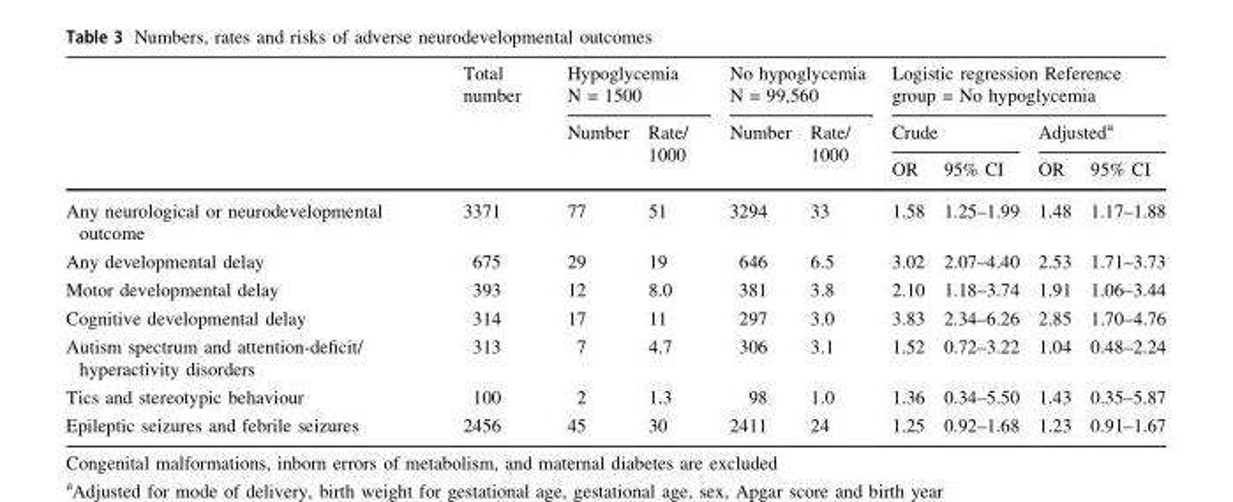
<table><thead><tr><td rowspan="3"></td><td rowspan="3">Total number</td><td colspan="2">Hypoglycemia N = 1500</td><td colspan="2">No hypoglycemia N = 99,560</td><td colspan="4">Logistic regression Reference group = No hypoglycemia</td></tr><tr><td rowspan="2">Number</td><td rowspan="2">Rate/ 1000</td><td rowspan="2">Number</td><td rowspan="2">Rate/ 1000</td><td colspan="2">Crude</td><td colspan="2">Adjusted<sup>a</sup></td></tr><tr><td>OR</td><td>95% CI</td><td>OR</td><td>95% CI</td></tr></thead><tbody><tr><td>Any neurological or neurodevelopmental outcome</td><td>3371</td><td>77</td><td>51</td><td>3294</td><td>33</td><td>1.58</td><td>1.25–1.99</td><td>1.48</td><td>1.17–1.88</td></tr><tr><td>Any developmental delay</td><td>675</td><td>29</td><td>19</td><td>646</td><td>6.5</td><td>3.02</td><td>2.07–4.40</td><td>2.53</td><td>1.71–3.73</td></tr><tr><td>Motor developmental delay</td><td>393</td><td>12</td><td>8.0</td><td>381</td><td>3.8</td><td>2.10</td><td>1.18–3.74</td><td>1.91</td><td>1.06–3.44</td></tr><tr><td>Cognitive developmental delay</td><td>314</td><td>17</td><td>11</td><td>297</td><td>3.0</td><td>3.83</td><td>2.34–6.26</td><td>2.85</td><td>1.70–4.76</td></tr><tr><td>Autism spectrum and attention-deficit/ hyperactivity disorders</td><td>313</td><td>7</td><td>4.7</td><td>306</td><td>3.1</td><td>1.52</td><td>0.72–3.22</td><td>1.04</td><td>0.48–2.24</td></tr><tr><td>Tics and stereotypic behaviour</td><td>100</td><td>2</td><td>1.3</td><td>98</td><td>1.0</td><td>1.36</td><td>0.34–5.50</td><td>1.43</td><td>0.35–5.87</td></tr><tr><td>Epileptic seizures and febrile seizures</td><td>2456</td><td>45</td><td>30</td><td>2411</td><td>24</td><td>1.25</td><td>0.92–1.68</td><td>1.23</td><td>0.91–1.67</td></tr></tbody></table>